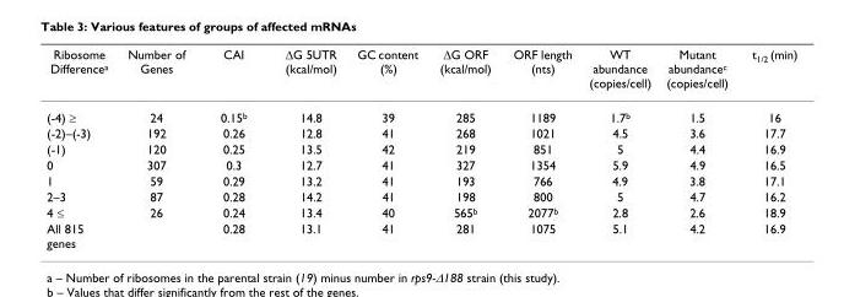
<table><thead><tr><td>Ribosome Difference<sup>a</sup></td><td>Number of Genes</td><td>CAI</td><td>ΔG 5UTR (kcal/mol)</td><td>GC content (%)</td><td>ΔG ORF (kcal/mol)</td><td>ORF length (nts)</td><td>WT abundance (copies/cell)</td><td>Mutant abundance<sup>c</sup> (copies/cell)</td><td>t<sub>1/2</sub> (min)</td></tr></thead><tbody><tr><td>(-4) ≥</td><td>24</td><td>0.15<sup>b</sup></td><td>14.8</td><td>39</td><td>285</td><td>1189</td><td>1.7<sup>b</sup></td><td>1.5</td><td>16</td></tr><tr><td>(-2)–(-3)</td><td>192</td><td>0.26</td><td>12.8</td><td>41</td><td>268</td><td>1021</td><td>4.5</td><td>3.6</td><td>17.7</td></tr><tr><td>(-1)</td><td>120</td><td>0.25</td><td>13.5</td><td>42</td><td>219</td><td>851</td><td>5</td><td>4.4</td><td>16.9</td></tr><tr><td>0</td><td>307</td><td>0.3</td><td>12.7</td><td>41</td><td>327</td><td>1354</td><td>5.9</td><td>4.9</td><td>16.5</td></tr><tr><td>1</td><td>59</td><td>0.29</td><td>13.2</td><td>41</td><td>193</td><td>766</td><td>4.9</td><td>3.8</td><td>17.1</td></tr><tr><td>2–3</td><td>87</td><td>0.28</td><td>14.2</td><td>41</td><td>198</td><td>800</td><td>5</td><td>4.7</td><td>16.2</td></tr><tr><td>4 ≤</td><td>26</td><td>0.24</td><td>13.4</td><td>40</td><td>565<sup>b</sup></td><td>2077<sup>b</sup></td><td>2.8</td><td>2.6</td><td>18.9</td></tr><tr><td>All 815 genes</td><td></td><td>0.28</td><td>13.1</td><td>41</td><td>281</td><td>1075</td><td>5.1</td><td>4.2</td><td>16.9</td></tr></tbody></table>